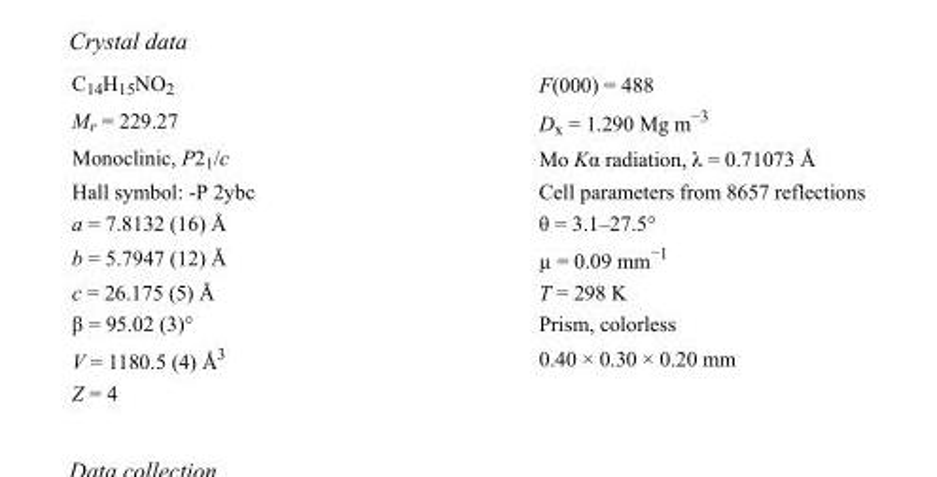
<table><tbody><tr><td>C<sub>14</sub>H<sub>15</sub>NO<sub>2</sub></td><td>F(000) = 488</td></tr><tr><td>M<sub>r</sub> = 229.27</td><td>D<sub>x</sub> = 1.290 Mg m<sup>−3</sup></td></tr><tr><td>Monoclinic, P2<sub>1</sub>/c</td><td>Mo Kα radiation, λ = 0.71073 Å</td></tr><tr><td>Hall symbol: -P 2ybc</td><td>Cell parameters from 8657 reflections</td></tr><tr><td>a = 7.8132 (16) Å</td><td>θ = 3.1–27.5°</td></tr><tr><td>b = 5.7947 (12) Å</td><td>µ = 0.09 mm<sup>−1</sup></td></tr><tr><td>c = 26.175 (5) Å</td><td>T = 298 K</td></tr><tr><td>β = 95.02 (3)°</td><td>Prism, colorless</td></tr><tr><td>V = 1180.5 (4) Å<sup>3</sup></td><td>0.40 × 0.30 × 0.20 mm</td></tr><tr><td>Z = 4</td><td></td></tr></tbody></table>